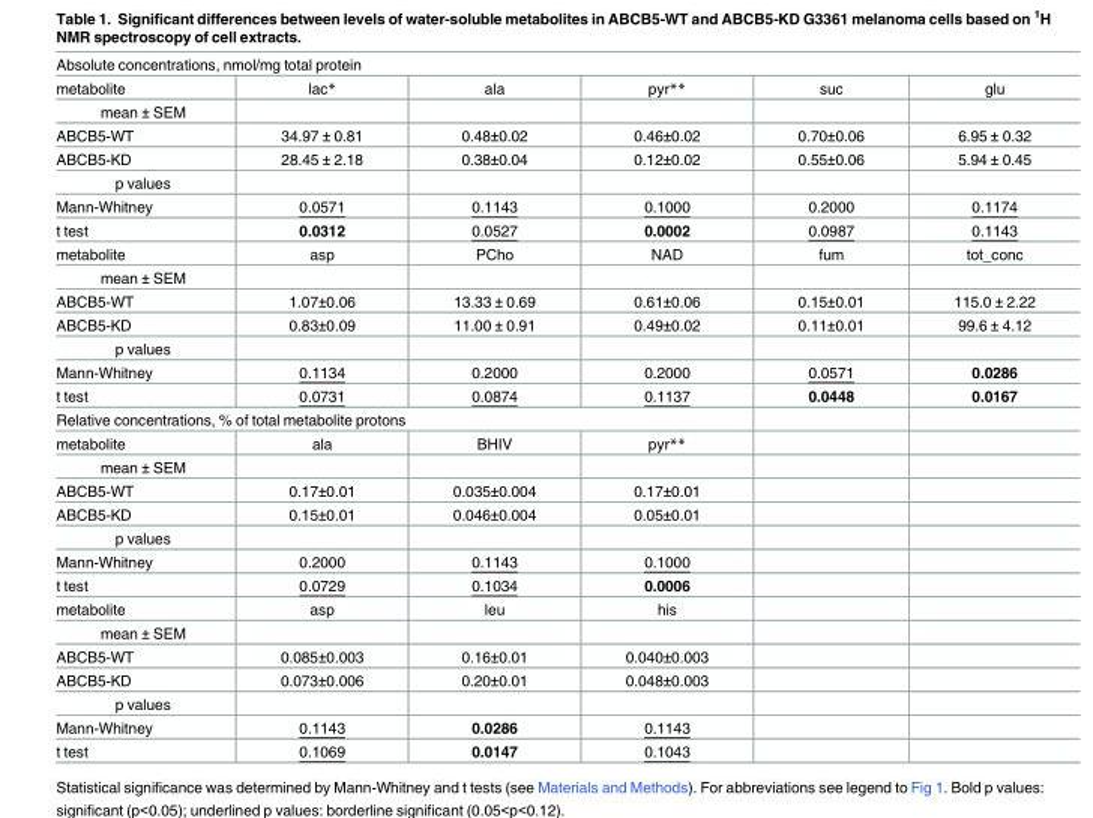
<table><tbody><tr><td colspan="6">Absolute concentrations, nmol/mg total protein</td></tr><tr><td>metabolite</td><td>lac*</td><td>ala</td><td>pyr**</td><td>suc</td><td>glu</td></tr><tr><td colspan="6">mean ± SEM</td></tr><tr><td>ABCB5-WT</td><td>34.97 ± 0.81</td><td>0.48±0.02</td><td>0.46±0.02</td><td>0.70±0.06</td><td>6.95 ± 0.32</td></tr><tr><td>ABCB5-KD</td><td>28.45 ± 2.18</td><td>0.38±0.04</td><td>0.12±0.02</td><td>0.55±0.06</td><td>5.94 ± 0.45</td></tr><tr><td colspan="6">p values</td></tr><tr><td>Mann-Whitney</td><td>0.0571</td><td>0.1143</td><td>0.1000</td><td>0.2000</td><td>0.1174</td></tr><tr><td>t test</td><td>0.0312</td><td>0.0527</td><td>0.0002</td><td>0.0987</td><td>0.1143</td></tr><tr><td>metabolite</td><td>asp</td><td>PCho</td><td>NAD</td><td>fum</td><td>tot_conc</td></tr><tr><td colspan="6">mean ± SEM</td></tr><tr><td>ABCB5-WT</td><td>1.07±0.06</td><td>13.33 ± 0.69</td><td>0.61±0.06</td><td>0.15±0.01</td><td>115.0 ± 2.22</td></tr><tr><td>ABCB5-KD</td><td>0.83±0.09</td><td>11.00 ± 0.91</td><td>0.49±0.02</td><td>0.11±0.01</td><td>99.6 ± 4.12</td></tr><tr><td colspan="6">p values</td></tr><tr><td>Mann-Whitney</td><td>0.1134</td><td>0.2000</td><td>0.2000</td><td>0.0571</td><td>0.0286</td></tr><tr><td>t test</td><td>0.0731</td><td>0.0874</td><td>0.1137</td><td>0.0448</td><td>0.0167</td></tr><tr><td colspan="6">Relative concentrations, % of total metabolite protons</td></tr><tr><td>metabolite</td><td>ala</td><td>BHIV</td><td>pyr**</td><td></td><td></td></tr><tr><td colspan="6">mean ± SEM</td></tr><tr><td>ABCB5-WT</td><td>0.17±0.01</td><td>0.035±0.004</td><td>0.17±0.01</td><td></td><td></td></tr><tr><td>ABCB5-KD</td><td>0.15±0.01</td><td>0.046±0.004</td><td>0.05±0.01</td><td></td><td></td></tr><tr><td colspan="6">p values</td></tr><tr><td>Mann-Whitney</td><td>0.2000</td><td>0.1143</td><td>0.1000</td><td></td><td></td></tr><tr><td>t test</td><td>0.0729</td><td>0.1034</td><td>0.0006</td><td></td><td></td></tr><tr><td>metabolite</td><td>asp</td><td>leu</td><td>his</td><td></td><td></td></tr><tr><td colspan="6">mean ± SEM</td></tr><tr><td>ABCB5-WT</td><td>0.085±0.003</td><td>0.16±0.01</td><td>0.040±0.003</td><td></td><td></td></tr><tr><td>ABCB5-KD</td><td>0.073±0.006</td><td>0.20±0.01</td><td>0.048±0.003</td><td></td><td></td></tr><tr><td colspan="6">p values</td></tr><tr><td>Mann-Whitney</td><td>0.1143</td><td>0.0286</td><td>0.1143</td><td></td><td></td></tr><tr><td>t test</td><td>0.1069</td><td>0.0147</td><td>0.1043</td><td></td><td></td></tr></tbody></table>